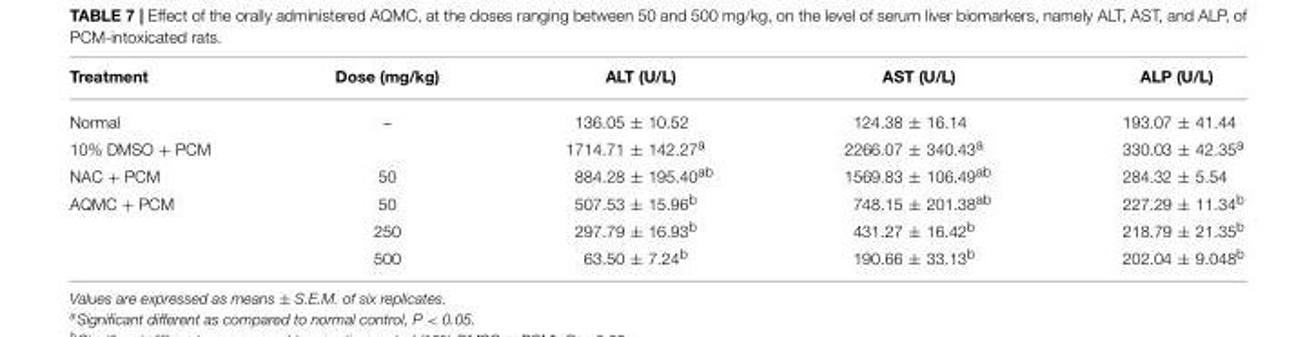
<table><thead><tr><td>Treatment</td><td>Dose (mg/kg)</td><td>ALT (U/L)</td><td>AST (U/L)</td><td>ALP (U/L)</td></tr></thead><tbody><tr><td>Normal</td><td>–</td><td>136.05 ± 10.52</td><td>124.38 ± 16.14</td><td>193.07 ± 41.44</td></tr><tr><td>10% DMSO + PCM</td><td></td><td>1714.71 ± 142.27<sup>a</sup></td><td>2266.07 ± 340.43<sup>a</sup></td><td>330.03 ± 42.35<sup>a</sup></td></tr><tr><td>NAC + PCM</td><td>50</td><td>884.28 ± 195.40<sup>ab</sup></td><td>1569.83 ± 106.49<sup>ab</sup></td><td>284.32 ± 5.54</td></tr><tr><td rowspan="3">AQMC + PCM</td><td>50</td><td>507.53 ± 15.96<sup>b</sup></td><td>748.15 ± 201.38<sup>ab</sup></td><td>227.29 ± 11.34<sup>b</sup></td></tr><tr><td>250</td><td>297.79 ± 16.93<sup>b</sup></td><td>431.27 ± 16.42<sup>b</sup></td><td>218.79 ± 21.35<sup>b</sup></td></tr><tr><td>500</td><td>63.50 ± 7.24<sup>b</sup></td><td>190.66 ± 33.13<sup>b</sup></td><td>202.04 ± 9.048<sup>b</sup></td></tr></tbody></table>